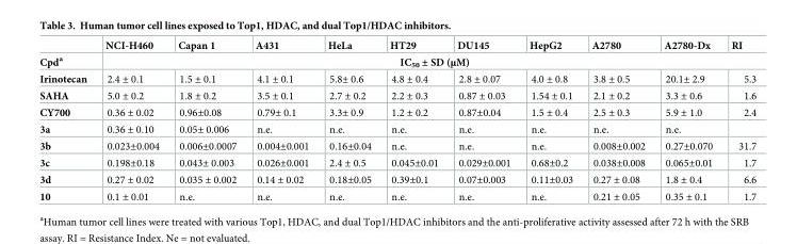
<table><thead><tr><td rowspan="2">Cpd<sup>a</sup></td><td>NCI-H460</td><td>Capan 1</td><td>A431</td><td>HeLa</td><td>HT29</td><td>DU145</td><td>HepG2</td><td>A2780</td><td>A2780-Dx</td><td>RI</td></tr><tr><td colspan="10">IC<sub>50</sub> ± SD (μM)</td></tr></thead><tbody><tr><td>Irinotecan</td><td>2.4 ± 0.1</td><td>1.5 ± 0.1</td><td>4.1 ± 0.1</td><td>5.8± 0.6</td><td>4.8 ± 0.4</td><td>2.8 ± 0.07</td><td>4.0 ± 0.8</td><td>3.8 ± 0.5</td><td>20.1± 2.9</td><td>5.3</td></tr><tr><td>SAHA</td><td>5.0 ± 0.2</td><td>1.8 ± 0.2</td><td>3.5 ± 0.1</td><td>2.7 ± 0.2</td><td>2.2 ± 0.3</td><td>0.87 ± 0.03</td><td>1.54 ± 0.1</td><td>2.1 ± 0.2</td><td>3.3 ± 0.6</td><td>1.6</td></tr><tr><td>CY700</td><td>0.36 ± 0.02</td><td>0.96±0.08</td><td>0.79± 0.1</td><td>3.3± 0.9</td><td>1.2 ± 0.2</td><td>0.87±0.04</td><td>1.5 ± 0.4</td><td>2.5 ± 0.3</td><td>5.9 ± 1.0</td><td>2.4</td></tr><tr><td>3a</td><td>0.36 ± 0.10</td><td>0.05± 0.006</td><td>n.e.</td><td>n.e.</td><td>n.e.</td><td>n.e.</td><td>n.e.</td><td>n.e.</td><td>n.e.</td><td></td></tr><tr><td>3b</td><td>0.023±0.004</td><td>0.006±0.0007</td><td>0.004±0.001</td><td>0.16±0.04</td><td>n.e.</td><td>n.e.</td><td>n.e.</td><td>0.008±0.002</td><td>0.27±0.070</td><td>31.7</td></tr><tr><td>3c</td><td>0.198±0.18</td><td>0.043± 0.003</td><td>0.026±0.001</td><td>2.4 ± 0.5</td><td>0.045±0.01</td><td>0.029±0.001</td><td>0.68±0.2</td><td>0.038±0.008</td><td>0.065±0.01</td><td>1.7</td></tr><tr><td>3d</td><td>0.27 ± 0.02</td><td>0.035 ± 0.002</td><td>0.14 ± 0.02</td><td>0.18±0.05</td><td>0.39±0.1</td><td>0.07±0.003</td><td>0.11±0.03</td><td>0.27 ± 0.08</td><td>1.8 ± 0.4</td><td>6.6</td></tr><tr><td>10</td><td>0.1 ± 0.01</td><td>n.e.</td><td>n.e.</td><td>n.e.</td><td>n.e.</td><td>n.e.</td><td>n.e.</td><td>0.21 ± 0.05</td><td>0.35 ± 0.1</td><td>1.7</td></tr></tbody></table>